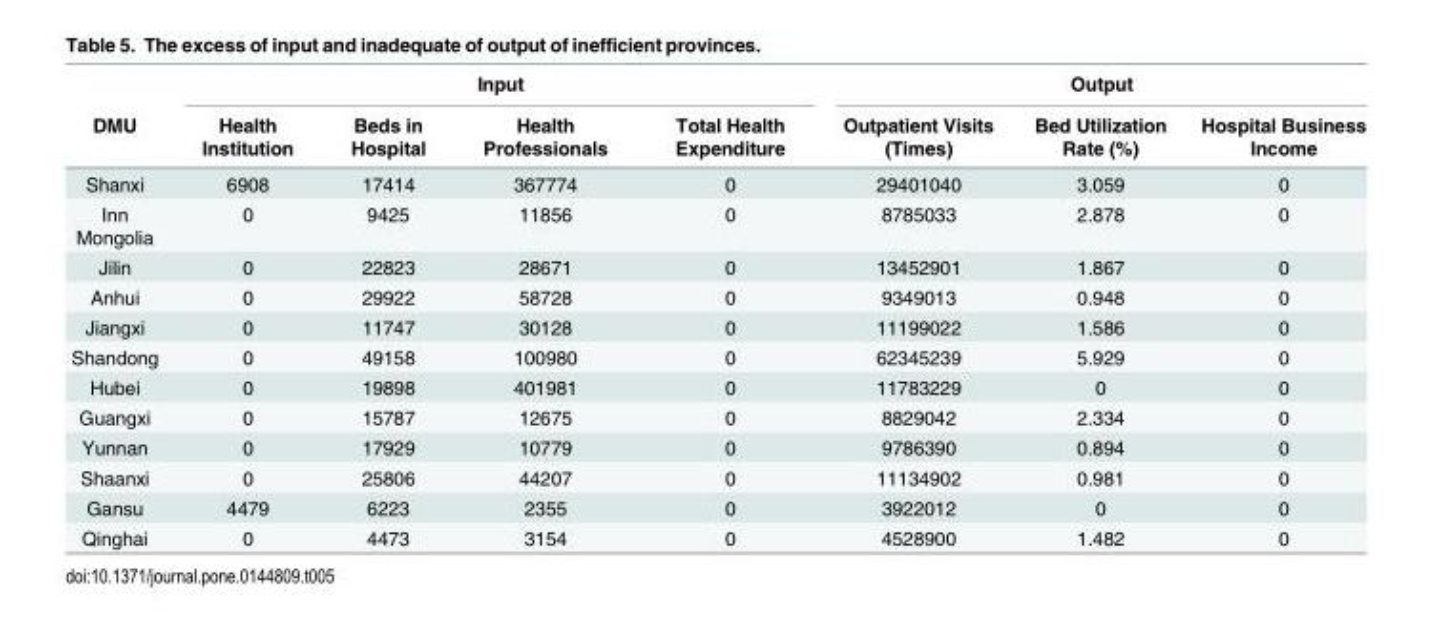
<table><thead><tr><td rowspan="2">DMU</td><td colspan="4">Input</td><td colspan="3">Output</td></tr><tr><td>Health Institution</td><td>Beds in Hospital</td><td>Health Professionals</td><td>Total Health Expenditure</td><td>Outpatient Visits (Times)</td><td>Bed Utilization Rate (%)</td><td>Hospital Business Income</td></tr></thead><tbody><tr><td>Shanxi</td><td>6908</td><td>17414</td><td>367774</td><td>0</td><td>29401040</td><td>3.059</td><td>0</td></tr><tr><td>Inn Mongolia</td><td>0</td><td>9425</td><td>11856</td><td>0</td><td>8785033</td><td>2.878</td><td>0</td></tr><tr><td>Jilin</td><td>0</td><td>22823</td><td>28671</td><td>0</td><td>13452901</td><td>1.867</td><td>0</td></tr><tr><td>Anhui</td><td>0</td><td>29922</td><td>58728</td><td>0</td><td>9349013</td><td>0.948</td><td>0</td></tr><tr><td>Jiangxi</td><td>0</td><td>11747</td><td>30128</td><td>0</td><td>11199022</td><td>1.586</td><td>0</td></tr><tr><td>Shandong</td><td>0</td><td>49158</td><td>100980</td><td>0</td><td>62345239</td><td>5.929</td><td>0</td></tr><tr><td>Hubei</td><td>0</td><td>19898</td><td>401981</td><td>0</td><td>11783229</td><td>0</td><td>0</td></tr><tr><td>Guangxi</td><td>0</td><td>15787</td><td>12675</td><td>0</td><td>8829042</td><td>2.334</td><td>0</td></tr><tr><td>Yunnan</td><td>0</td><td>17929</td><td>10779</td><td>0</td><td>9786390</td><td>0.894</td><td>0</td></tr><tr><td>Shaanxi</td><td>0</td><td>25806</td><td>44207</td><td>0</td><td>11134902</td><td>0.981</td><td>0</td></tr><tr><td>Gansu</td><td>4479</td><td>6223</td><td>2355</td><td>0</td><td>3922012</td><td>0</td><td>0</td></tr><tr><td>Qinghai</td><td>0</td><td>4473</td><td>3154</td><td>0</td><td>4528900</td><td>1.482</td><td>0</td></tr></tbody></table>